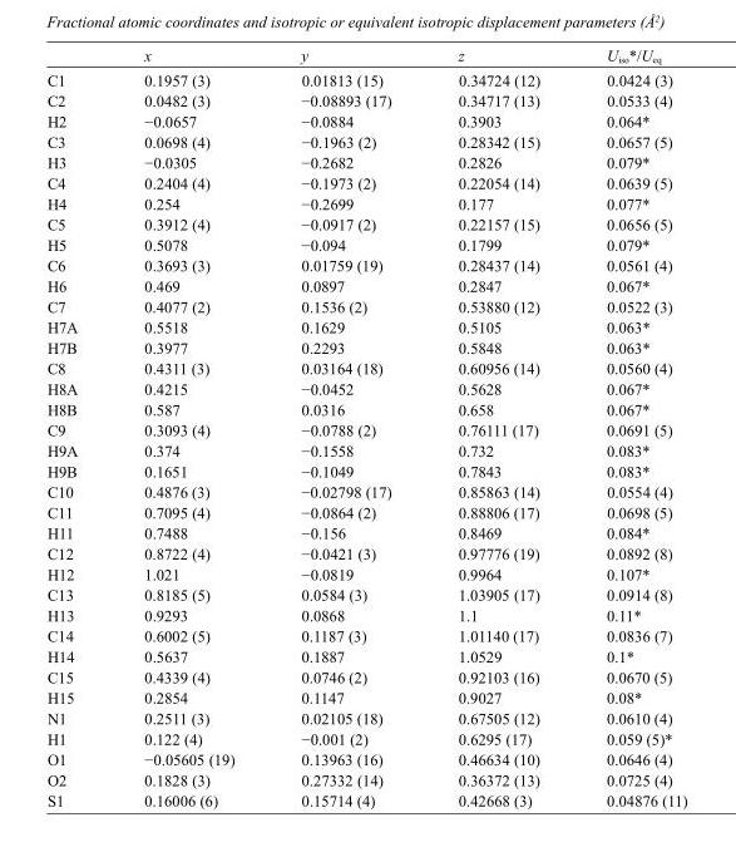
<table><thead><tr><td></td><td>x</td><td>y</td><td>z</td><td>U<sub>iso</sub>*/U<sub>eq</sub></td></tr></thead><tbody><tr><td>C1</td><td>0.1957 (3)</td><td>0.01813 (15)</td><td>0.34724 (12)</td><td>0.0424 (3)</td></tr><tr><td>C2</td><td>0.0482 (3)</td><td>−0.08893 (17)</td><td>0.34717 (13)</td><td>0.0533 (4)</td></tr><tr><td>H2</td><td>−0.0657</td><td>−0.0884</td><td>0.3903</td><td>0.064*</td></tr><tr><td>C3</td><td>0.0698 (4)</td><td>−0.1963 (2)</td><td>0.28342 (15)</td><td>0.0657 (5)</td></tr><tr><td>H3</td><td>−0.0305</td><td>−0.2682</td><td>0.2826</td><td>0.079*</td></tr><tr><td>C4</td><td>0.2404 (4)</td><td>−0.1973 (2)</td><td>0.22054 (14)</td><td>0.0639 (5)</td></tr><tr><td>H4</td><td>0.254</td><td>−0.2699</td><td>0.177</td><td>0.077*</td></tr><tr><td>C5</td><td>0.3912 (4)</td><td>−0.0917 (2)</td><td>0.22157 (15)</td><td>0.0656 (5)</td></tr><tr><td>H5</td><td>0.5078</td><td>−0.094</td><td>0.1799</td><td>0.079*</td></tr><tr><td>C6</td><td>0.3693 (3)</td><td>0.01759 (19)</td><td>0.28437 (14)</td><td>0.0561 (4)</td></tr><tr><td>H6</td><td>0.469</td><td>0.0897</td><td>0.2847</td><td>0.067*</td></tr><tr><td>C7</td><td>0.4077 (2)</td><td>0.1536 (2)</td><td>0.53880 (12)</td><td>0.0522 (3)</td></tr><tr><td>H7A</td><td>0.5518</td><td>0.1629</td><td>0.5105</td><td>0.063*</td></tr><tr><td>H7B</td><td>0.3977</td><td>0.2293</td><td>0.5848</td><td>0.063*</td></tr><tr><td>C8</td><td>0.4311 (3)</td><td>0.03164 (18)</td><td>0.60956 (14)</td><td>0.0560 (4)</td></tr><tr><td>H8A</td><td>0.4215</td><td>−0.0452</td><td>0.5628</td><td>0.067*</td></tr><tr><td>H8B</td><td>0.587</td><td>0.0316</td><td>0.658</td><td>0.067*</td></tr><tr><td>C9</td><td>0.3093 (4)</td><td>−0.0788 (2)</td><td>0.76111 (17)</td><td>0.0691 (5)</td></tr><tr><td>H9A</td><td>0.374</td><td>−0.1558</td><td>0.732</td><td>0.083*</td></tr><tr><td>H9B</td><td>0.1651</td><td>−0.1049</td><td>0.7843</td><td>0.083*</td></tr><tr><td>C10</td><td>0.4876 (3)</td><td>−0.02798 (17)</td><td>0.85863 (14)</td><td>0.0554 (4)</td></tr><tr><td>C11</td><td>0.7095 (4)</td><td>−0.0864 (2)</td><td>0.88806 (17)</td><td>0.0698 (5)</td></tr><tr><td>H11</td><td>0.7488</td><td>−0.156</td><td>0.8469</td><td>0.084*</td></tr><tr><td>C12</td><td>0.8722 (4)</td><td>−0.0421 (3)</td><td>0.97776 (19)</td><td>0.0892 (8)</td></tr><tr><td>H12</td><td>1.021</td><td>−0.0819</td><td>0.9964</td><td>0.107*</td></tr><tr><td>C13</td><td>0.8185 (5)</td><td>0.0584 (3)</td><td>1.03905 (17)</td><td>0.0914 (8)</td></tr><tr><td>H13</td><td>0.9293</td><td>0.0868</td><td>1.1</td><td>0.11*</td></tr><tr><td>C14</td><td>0.6002 (5)</td><td>0.1187 (3)</td><td>1.01140 (17)</td><td>0.0836 (7)</td></tr><tr><td>H14</td><td>0.5637</td><td>0.1887</td><td>1.0529</td><td>0.1*</td></tr><tr><td>C15</td><td>0.4339 (4)</td><td>0.0746 (2)</td><td>0.92103 (16)</td><td>0.0670 (5)</td></tr><tr><td>H15</td><td>0.2854</td><td>0.1147</td><td>0.9027</td><td>0.08*</td></tr><tr><td>N1</td><td>0.2511 (3)</td><td>0.02105 (18)</td><td>0.67505 (12)</td><td>0.0610 (4)</td></tr><tr><td>H1</td><td>0.122 (4)</td><td>−0.001 (2)</td><td>0.6295 (17)</td><td>0.059 (5)*</td></tr><tr><td>O1</td><td>−0.05605 (19)</td><td>0.13963 (16)</td><td>0.46634 (10)</td><td>0.0646 (4)</td></tr><tr><td>O2</td><td>0.1828 (3)</td><td>0.27332 (14)</td><td>0.36372 (13)</td><td>0.0725 (4)</td></tr><tr><td>S1</td><td>0.16006 (6)</td><td>0.15714 (4)</td><td>0.42668 (3)</td><td>0.04876 (11)</td></tr></tbody></table>